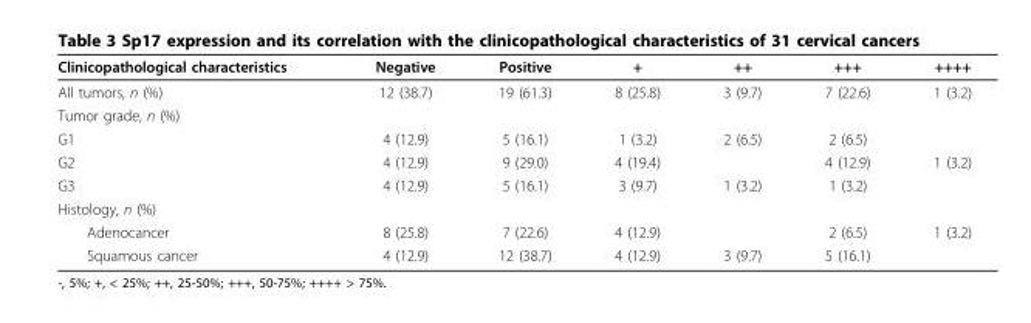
<table><thead><tr><td>Clinicopathological characteristics</td><td>Negative</td><td>Positive</td><td>+</td><td>++</td><td>+++</td><td>++++</td></tr></thead><tbody><tr><td>All tumors, n (%)</td><td>12 (38.7)</td><td>19 (61.3)</td><td>8 (25.8)</td><td>3 (9.7)</td><td>7 (22.6)</td><td>1 (3.2)</td></tr><tr><td colspan="7">Tumor grade, n (%)</td></tr><tr><td>G1</td><td>4 (12.9)</td><td>5 (16.1)</td><td>1 (3.2)</td><td>2 (6.5)</td><td>2 (6.5)</td><td></td></tr><tr><td>G2</td><td>4 (12.9)</td><td>9 (29.0)</td><td>4 (19.4)</td><td></td><td>4 (12.9)</td><td>1 (3.2)</td></tr><tr><td>G3</td><td>4 (12.9)</td><td>5 (16.1)</td><td>3 (9.7)</td><td>1 (3.2)</td><td>1 (3.2)</td><td></td></tr><tr><td colspan="7">Histology, n (%)</td></tr><tr><td>Adenocancer</td><td>8 (25.8)</td><td>7 (22.6)</td><td>4 (12.9)</td><td></td><td>2 (6.5)</td><td>1 (3.2)</td></tr><tr><td>Squamous cancer</td><td>4 (12.9)</td><td>12 (38.7)</td><td>4 (12.9)</td><td>3 (9.7)</td><td>5 (16.1)</td><td></td></tr></tbody></table>